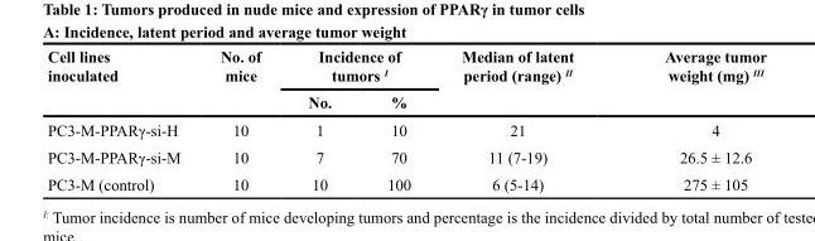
<table><thead><tr><td rowspan="2">Cell lines inoculated</td><td rowspan="2">No. of mice</td><td colspan="2">Incidence of tumors <sup>I</sup></td><td rowspan="2">Median of latent period (range) <sup>II</sup></td><td rowspan="2">Average tumor weight (mg) <sup>III</sup></td></tr><tr><td>No.</td><td>%</td></tr></thead><tbody><tr><td>PC3-M-PPARγ-si-H</td><td>10</td><td>1</td><td>10</td><td>21</td><td>4</td></tr><tr><td>PC3-M-PPARγ-si-M</td><td>10</td><td>7</td><td>70</td><td>11 (7-19)</td><td>26.5 ± 12.6</td></tr><tr><td>PC3-M (control)</td><td>10</td><td>10</td><td>100</td><td>6 (5-14)</td><td>275 ± 105</td></tr></tbody></table>